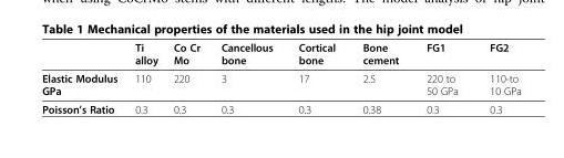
<table><thead><tr><td></td><td>Ti alloy</td><td>Co Cr Mo</td><td>Cancellous bone</td><td>Cortical bone</td><td>Bone cement</td><td>FG1</td><td>FG2</td></tr></thead><tbody><tr><td>Elastic Modulus GPa</td><td>110</td><td>220</td><td>3</td><td>17</td><td>2.5</td><td>220 to 50 GPa</td><td>110-to 10 GPa</td></tr><tr><td>Poisson’s Ratio</td><td>0.3</td><td>0.3</td><td>0.3</td><td>0.3</td><td>0.38</td><td>0.3</td><td>0.3</td></tr></tbody></table>